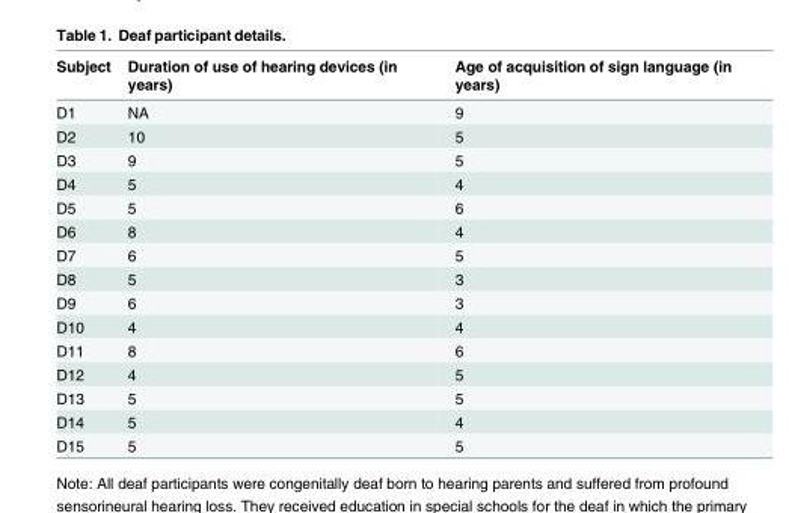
<table><thead><tr><td>Subject</td><td>Duration of use of hearing devices (in years)</td><td>Age of acquisition of sign language (in years)</td></tr></thead><tbody><tr><td>D1</td><td>NA</td><td>9</td></tr><tr><td>D2</td><td>10</td><td>5</td></tr><tr><td>D3</td><td>9</td><td>5</td></tr><tr><td>D4</td><td>5</td><td>4</td></tr><tr><td>D5</td><td>5</td><td>6</td></tr><tr><td>D6</td><td>8</td><td>4</td></tr><tr><td>D7</td><td>6</td><td>5</td></tr><tr><td>D8</td><td>5</td><td>3</td></tr><tr><td>D9</td><td>6</td><td>3</td></tr><tr><td>D10</td><td>4</td><td>4</td></tr><tr><td>D11</td><td>8</td><td>6</td></tr><tr><td>D12</td><td>4</td><td>5</td></tr><tr><td>D13</td><td>5</td><td>5</td></tr><tr><td>D14</td><td>5</td><td>4</td></tr><tr><td>D15</td><td>5</td><td>5</td></tr></tbody></table>